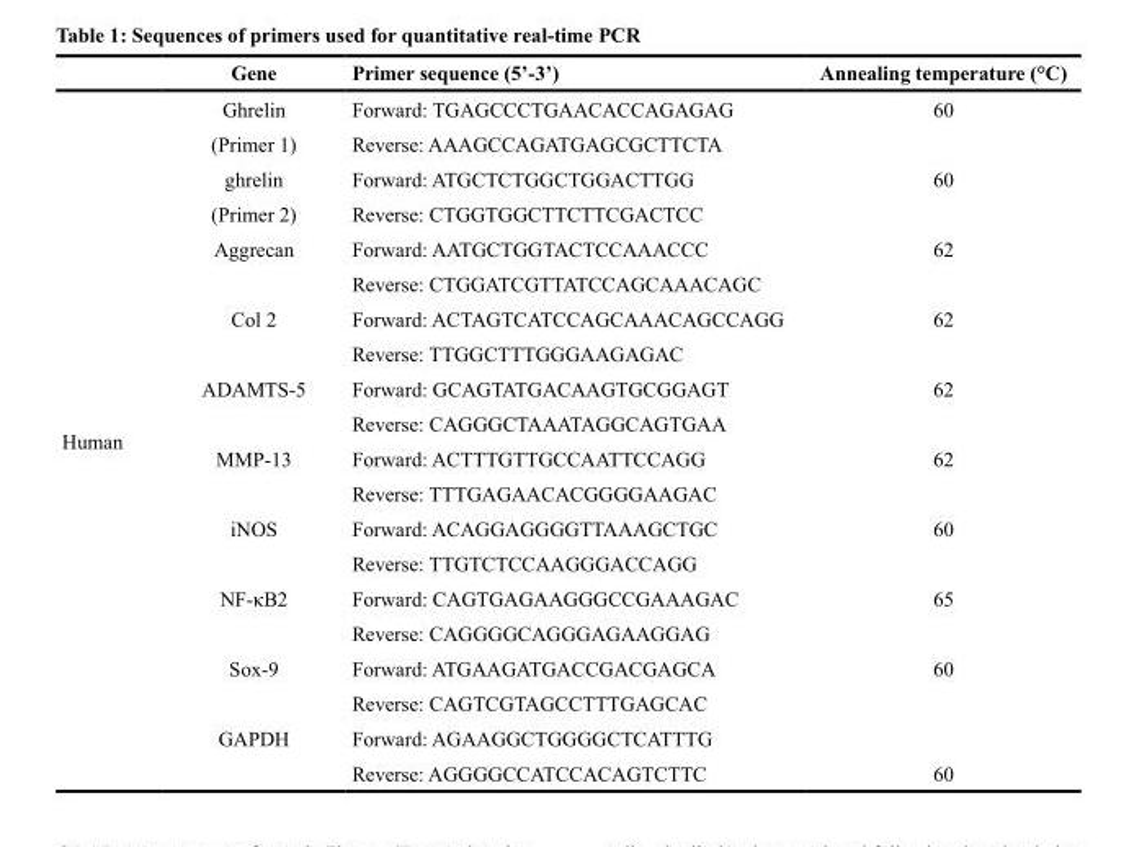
<table><thead><tr><td></td><td>Gene</td><td>Primer sequence (5’-3’)</td><td>Annealing temperature (°C)</td></tr></thead><tbody><tr><td rowspan="20">Human</td><td>Ghrelin</td><td>Forward: TGAGCCCTGAACACCAGAGAG</td><td>60</td></tr><tr><td>(Primer 1)</td><td>Reverse: AAAGCCAGATGAGCGCTTCTA</td><td></td></tr><tr><td>ghrelin</td><td>Forward: ATGCTCTGGCTGGACTTGG</td><td>60</td></tr><tr><td>(Primer 2)</td><td>Reverse: CTGGTGGCTTCTTCGACTCC</td><td></td></tr><tr><td>Aggrecan</td><td>Forward: AATGCTGGTACTCCAAACCC</td><td>62</td></tr><tr><td></td><td>Reverse: CTGGATCGTTATCCAGCAAACAGC</td><td></td></tr><tr><td>Col 2</td><td>Forward: ACTAGTCATCCAGCAAACAGCCAGG</td><td>62</td></tr><tr><td></td><td>Reverse: TTGGCTTTGGGAAGAGAC</td><td></td></tr><tr><td>ADAMTS-5</td><td>Forward: GCAGTATGACAAGTGCGGAGT</td><td>62</td></tr><tr><td></td><td>Reverse: CAGGGCTAAATAGGCAGTGAA</td><td></td></tr><tr><td>MMP-13</td><td>Forward: ACTTTGTTGCCAATTCCAGG</td><td>62</td></tr><tr><td></td><td>Reverse: TTTGAGAACACGGGGAAGAC</td><td></td></tr><tr><td>iNOS</td><td>Forward: ACAGGAGGGGTTAAAGCTGC</td><td>60</td></tr><tr><td></td><td>Reverse: TTGTCTCCAAGGGACCAGG</td><td></td></tr><tr><td>NF-κB2</td><td>Forward: CAGTGAGAAGGGCCGAAAGAC</td><td>65</td></tr><tr><td></td><td>Reverse: CAGGGGCAGGGAGAAGGAG</td><td></td></tr><tr><td>Sox-9</td><td>Forward: ATGAAGATGACCGACGAGCA</td><td>60</td></tr><tr><td></td><td>Reverse: CAGTCGTAGCCTTTGAGCAC</td><td></td></tr><tr><td>GAPDH</td><td>Forward: AGAAGGCTGGGGCTCATTTG</td><td></td></tr><tr><td></td><td>Reverse: AGGGGCCATCCACAGTCTTC</td><td>60</td></tr></tbody></table>